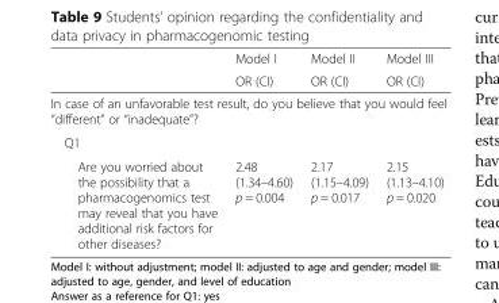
<table><thead><tr><td rowspan="2"></td><td rowspan="2">Model I OR (CI)</td><td rowspan="2">Model II OR (CI)</td><td rowspan="2">Model III OR (CI)</td></tr><tr></tr></thead><tbody><tr><td colspan="4">In case of an unfavorable test result, do you believe that you would feel “different” or “inadequate”?</td></tr><tr><td colspan="4">Q1</td></tr><tr><td>Are you worried about the possibility that a pharmacogenomics test may reveal that you have additional risk factors for other diseases?</td><td>2.48 (1.34–4.60) p = 0.004</td><td>2.17 (1.15–4.09) p = 0.017</td><td>2.15 (1.13–4.10) p = 0.020</td></tr></tbody></table>